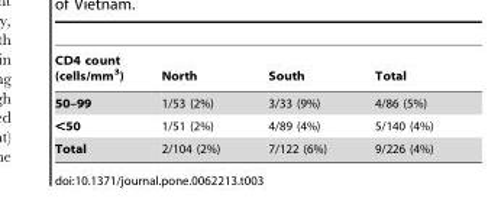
<table><thead><tr><td>CD4 count (cells/mm<sup>3</sup>)</td><td>North</td><td>South</td><td>Total</td></tr></thead><tbody><tr><td>50–99</td><td>1/53 (2%)</td><td>3/33 (9%)</td><td>4/86 (5%)</td></tr><tr><td>&lt;50</td><td>1/51 (2%)</td><td>4/89 (4%)</td><td>5/140 (4%)</td></tr><tr><td>Total</td><td>2/104 (2%)</td><td>7/122 (6%)</td><td>9/226 (4%)</td></tr></tbody></table>